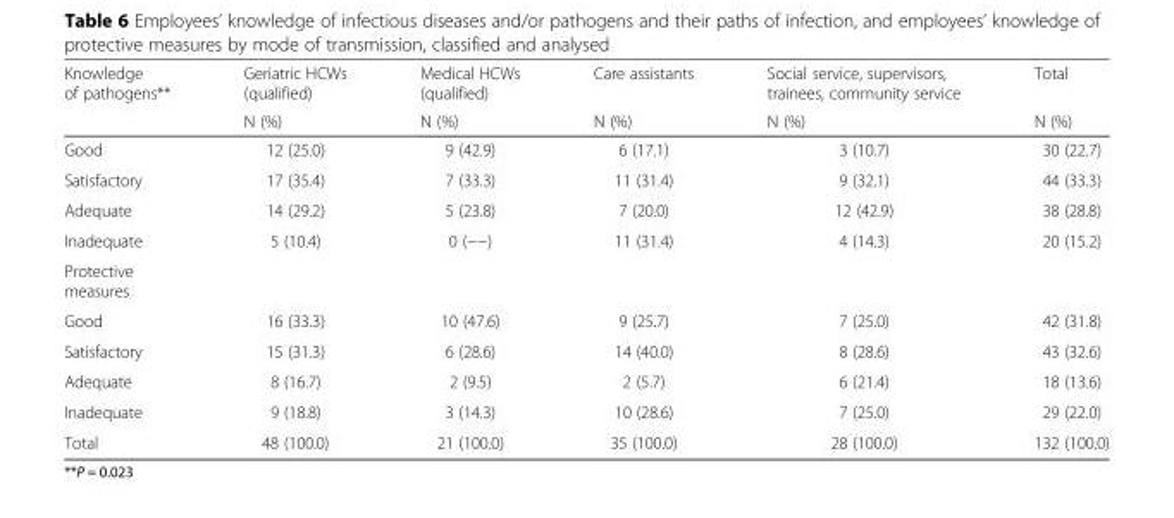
<table><thead><tr><td rowspan="2">Knowledge of pathogens**</td><td rowspan="2">Geriatric HCWs (qualified) N (%)</td><td rowspan="2">Medical HCWs (qualified) N (%)</td><td rowspan="2">Care assistants N (%)</td><td rowspan="2">Social service, supervisors, trainees, community service N (%)</td><td rowspan="2">Total N (%)</td></tr><tr></tr></thead><tbody><tr><td>Good</td><td>12 (25.0)</td><td>9 (42.9)</td><td>6 (17.1)</td><td>3 (10.7)</td><td>30 (22.7)</td></tr><tr><td>Satisfactory</td><td>17 (35.4)</td><td>7 (33.3)</td><td>11 (31.4)</td><td>9 (32.1)</td><td>44 (33.3)</td></tr><tr><td>Adequate</td><td>14 (29.2)</td><td>5 (23.8)</td><td>7 (20.0)</td><td>12 (42.9)</td><td>38 (28.8)</td></tr><tr><td>Inadequate</td><td>5 (10.4)</td><td>0 (−−)</td><td>11 (31.4)</td><td>4 (14.3)</td><td>20 (15.2)</td></tr><tr><td colspan="6">Protective measures</td></tr><tr><td>Good</td><td>16 (33.3)</td><td>10 (47.6)</td><td>9 (25.7)</td><td>7 (25.0)</td><td>42 (31.8)</td></tr><tr><td>Satisfactory</td><td>15 (31.3)</td><td>6 (28.6)</td><td>14 (40.0)</td><td>8 (28.6)</td><td>43 (32.6)</td></tr><tr><td>Adequate</td><td>8 (16.7)</td><td>2 (9.5)</td><td>2 (5.7)</td><td>6 (21.4)</td><td>18 (13.6)</td></tr><tr><td>Inadequate</td><td>9 (18.8)</td><td>3 (14.3)</td><td>10 (28.6)</td><td>7 (25.0)</td><td>29 (22.0)</td></tr><tr><td>Total</td><td>48 (100.0)</td><td>21 (100.0)</td><td>35 (100.0)</td><td>28 (100.0)</td><td>132 (100.0)</td></tr></tbody></table>